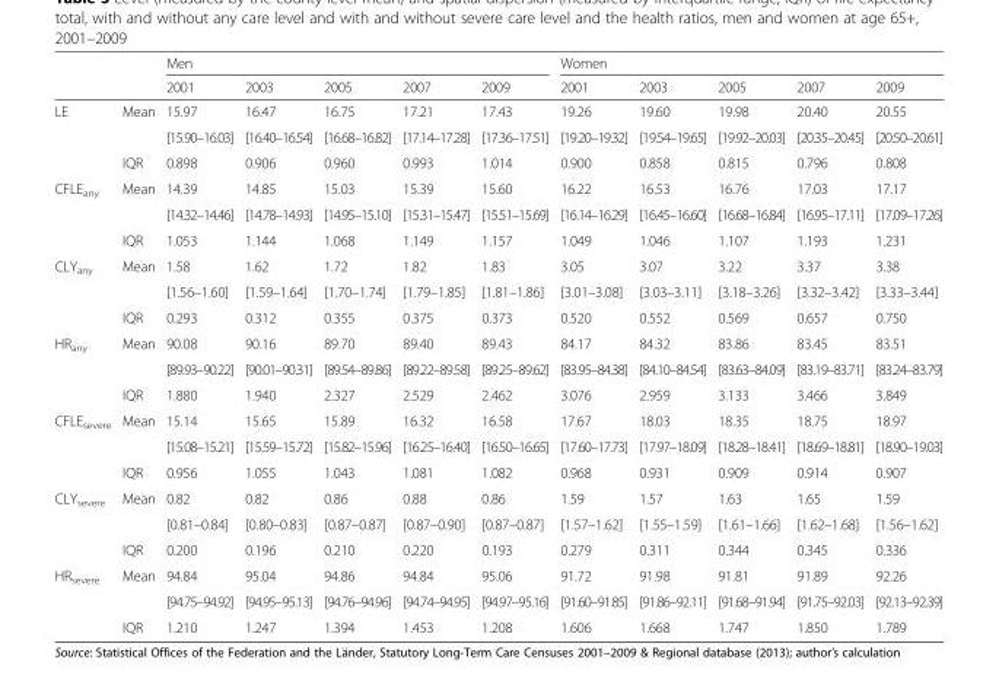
<table><thead><tr><td rowspan="2"></td><td rowspan="2"></td><td colspan="5">Men</td><td colspan="5">Women</td></tr><tr><td>2001</td><td>2003</td><td>2005</td><td>2007</td><td>2009</td><td>2001</td><td>2003</td><td>2005</td><td>2007</td><td>2009</td></tr></thead><tbody><tr><td rowspan="3">LE</td><td rowspan="2">Mean</td><td>15.97</td><td>16.47</td><td>16.75</td><td>17.21</td><td>17.43</td><td>19.26</td><td>19.60</td><td>19.98</td><td>20.40</td><td>20.55</td></tr><tr><td>[15.90–16.03]</td><td>[16.40–16.54]</td><td>[16.68–16.82]</td><td>[17.14–17.28]</td><td>[17.36–17.51]</td><td>[19.20–19.32]</td><td>[19.54–19.65]</td><td>[19.92–20.03]</td><td>[20.35–20.45]</td><td>[20.50–20.61]</td></tr><tr><td>IQR</td><td>0.898</td><td>0.906</td><td>0.960</td><td>0.993</td><td>1.014</td><td>0.900</td><td>0.858</td><td>0.815</td><td>0.796</td><td>0.808</td></tr><tr><td rowspan="3">CFLE<sub>any</sub></td><td rowspan="2">Mean</td><td>14.39</td><td>14.85</td><td>15.03</td><td>15.39</td><td>15.60</td><td>16.22</td><td>16.53</td><td>16.76</td><td>17.03</td><td>17.17</td></tr><tr><td>[14.32–14.46]</td><td>[14.78–14.93]</td><td>[14.95–15.10]</td><td>[15.31–15.47]</td><td>[15.51–15.69]</td><td>[16.14–16.29]</td><td>[16.45–16.60]</td><td>[16.68–16.84]</td><td>[16.95–17.11]</td><td>[17.09–17.26]</td></tr><tr><td>IQR</td><td>1.053</td><td>1.144</td><td>1.068</td><td>1.149</td><td>1.157</td><td>1.049</td><td>1.046</td><td>1.107</td><td>1.193</td><td>1.231</td></tr><tr><td rowspan="3">CLY<sub>any</sub></td><td rowspan="2">Mean</td><td>1.58</td><td>1.62</td><td>1.72</td><td>1.82</td><td>1.83</td><td>3.05</td><td>3.07</td><td>3.22</td><td>3.37</td><td>3.38</td></tr><tr><td>[1.56–1.60]</td><td>[1.59–1.64]</td><td>[1.70–1.74]</td><td>[1.79–1.85]</td><td>[1.81–1.86]</td><td>[3.01–3.08]</td><td>[3.03–3.11]</td><td>[3.18–3.26]</td><td>[3.32–3.42]</td><td>[3.33–3.44]</td></tr><tr><td>IQR</td><td>0.293</td><td>0.312</td><td>0.355</td><td>0.375</td><td>0.373</td><td>0.520</td><td>0.552</td><td>0.569</td><td>0.657</td><td>0.750</td></tr><tr><td rowspan="3">HR<sub>any</sub></td><td rowspan="2">Mean</td><td>90.08</td><td>90.16</td><td>89.70</td><td>89.40</td><td>89.43</td><td>84.17</td><td>84.32</td><td>83.86</td><td>83.45</td><td>83.51</td></tr><tr><td>[89.93–90.22]</td><td>[90.01–90.31]</td><td>[89.54–89.86]</td><td>[89.22–89.58]</td><td>[89.25–89.62]</td><td>[83.95–84.38]</td><td>[84.10–84.54]</td><td>[83.63–84.09]</td><td>[83.19–83.71]</td><td>[83.24–83.79]</td></tr><tr><td>IQR</td><td>1.880</td><td>1.940</td><td>2.327</td><td>2.529</td><td>2.462</td><td>3.076</td><td>2.959</td><td>3.133</td><td>3.466</td><td>3.849</td></tr><tr><td rowspan="3">CFLE<sub>severe</sub></td><td rowspan="2">Mean</td><td>15.14</td><td>15.65</td><td>15.89</td><td>16.32</td><td>16.58</td><td>17.67</td><td>18.03</td><td>18.35</td><td>18.75</td><td>18.97</td></tr><tr><td>[15.08–15.21]</td><td>[15.59–15.72]</td><td>[15.82–15.96]</td><td>[16.25–16.40]</td><td>[16.50–16.65]</td><td>[17.60–17.73]</td><td>[17.97–18.09]</td><td>[18.28–18.41]</td><td>[18.69–18.81]</td><td>[18.90–19.03]</td></tr><tr><td>IQR</td><td>0.956</td><td>1.055</td><td>1.043</td><td>1.081</td><td>1.082</td><td>0.968</td><td>0.931</td><td>0.909</td><td>0.914</td><td>0.907</td></tr><tr><td rowspan="3">CLY<sub>severe</sub></td><td rowspan="2">Mean</td><td>0.82</td><td>0.82</td><td>0.86</td><td>0.88</td><td>0.86</td><td>1.59</td><td>1.57</td><td>1.63</td><td>1.65</td><td>1.59</td></tr><tr><td>[0.81–0.84]</td><td>[0.80–0.83]</td><td>[0.87–0.87]</td><td>[0.87–0.90]</td><td>[0.87–0.87]</td><td>[1.57–1.62]</td><td>[1.55–1.59]</td><td>[1.61–1.66]</td><td>[1.62–1.68]</td><td>[1.56–1.62]</td></tr><tr><td>IQR</td><td>0.200</td><td>0.196</td><td>0.210</td><td>0.220</td><td>0.193</td><td>0.279</td><td>0.311</td><td>0.344</td><td>0.345</td><td>0.336</td></tr><tr><td rowspan="3">HR<sub>severe</sub></td><td rowspan="2">Mean</td><td>94.84</td><td>95.04</td><td>94.86</td><td>94.84</td><td>95.06</td><td>91.72</td><td>91.98</td><td>91.81</td><td>91.89</td><td>92.26</td></tr><tr><td>[94.75–94.92]</td><td>[94.95–95.13]</td><td>[94.76–94.96]</td><td>[94.74–94.95]</td><td>[94.97–95.16]</td><td>[91.60–91.85]</td><td>[91.86–92.11]</td><td>[91.68–91.94]</td><td>[91.75–92.03]</td><td>[92.13–92.39]</td></tr><tr><td>IQR</td><td>1.210</td><td>1.247</td><td>1.394</td><td>1.453</td><td>1.208</td><td>1.606</td><td>1.668</td><td>1.747</td><td>1.850</td><td>1.789</td></tr></tbody></table>